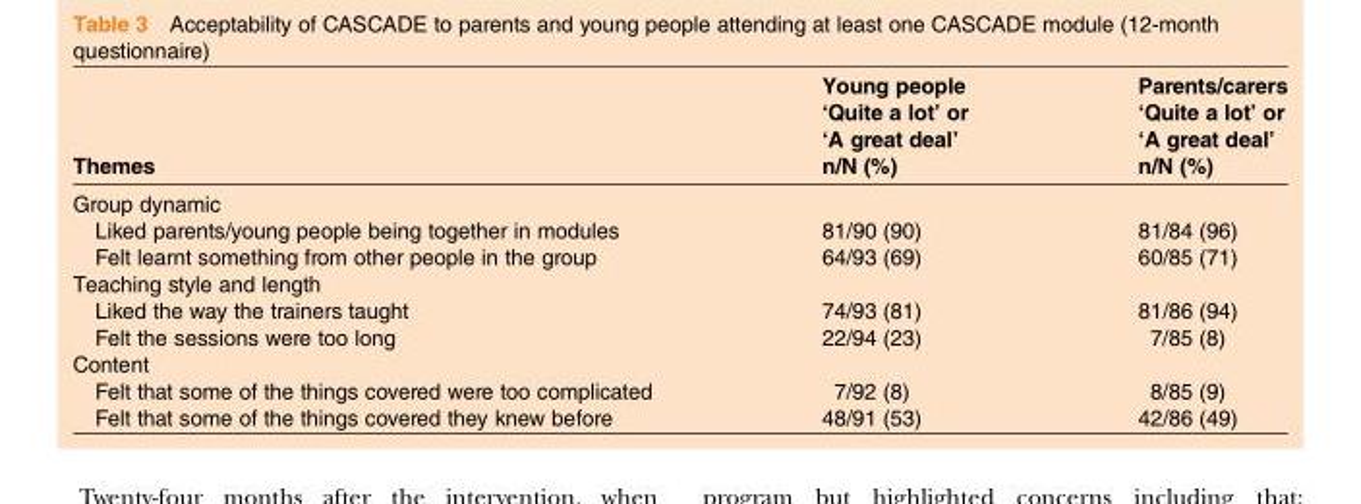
<table><thead><tr><td rowspan="2">Themes</td><td rowspan="2">Young people ‘Quite a lot’ or ‘A great deal’ n/N (%)</td><td rowspan="2">Parents/carers ‘Quite a lot’ or ‘A great deal’ n/N (%)</td></tr><tr></tr></thead><tbody><tr><td colspan="3">Group dynamic</td></tr><tr><td>Liked parents/young people being together in modules</td><td>81/90 (90)</td><td>81/84 (96)</td></tr><tr><td>Felt learnt something from other people in the group</td><td>64/93 (69)</td><td>60/85 (71)</td></tr><tr><td colspan="3">Teaching style and length</td></tr><tr><td>Liked the way the trainers taught</td><td>74/93 (81)</td><td>81/86 (94)</td></tr><tr><td>Felt the sessions were too long</td><td>22/94 (23)</td><td>7/85 (8)</td></tr><tr><td colspan="3">Content</td></tr><tr><td>Felt that some of the things covered were too complicated</td><td>7/92 (8)</td><td>8/85 (9)</td></tr><tr><td>Felt that some of the things covered they knew before</td><td>48/91 (53)</td><td>42/86 (49)</td></tr></tbody></table>